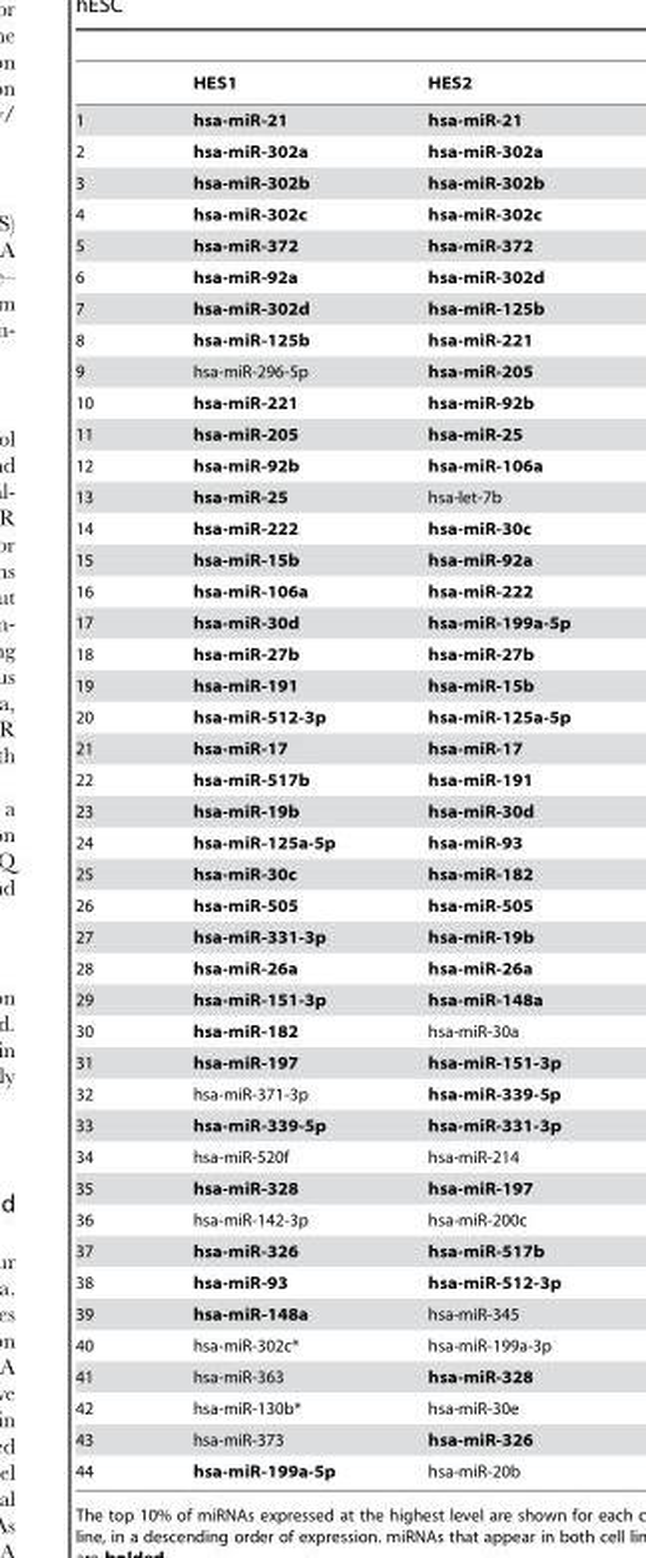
<table><thead><tr><td></td><td>HES1</td><td>HES2</td></tr></thead><tbody><tr><td>1</td><td>hsa-miR-21</td><td>hsa-miR-21</td></tr><tr><td>2</td><td>hsa-miR-302a</td><td>hsa-miR-302a</td></tr><tr><td>3</td><td>hsa-miR-302b</td><td>hsa-miR-302b</td></tr><tr><td>4</td><td>hsa-miR-302c</td><td>hsa-miR-302c</td></tr><tr><td>5</td><td>hsa-miR-372</td><td>hsa-miR-372</td></tr><tr><td>6</td><td>hsa-miR-92a</td><td>hsa-miR-302d</td></tr><tr><td>7</td><td>hsa-miR-302d</td><td>hsa-miR-125b</td></tr><tr><td>8</td><td>hsa-miR-125b</td><td>hsa-miR-221</td></tr><tr><td>9</td><td>hsa-miR-296-5p</td><td>hsa-miR-205</td></tr><tr><td>10</td><td>hsa-miR-221</td><td>hsa-miR-92b</td></tr><tr><td>11</td><td>hsa-miR-205</td><td>hsa-miR-25</td></tr><tr><td>12</td><td>hsa-miR-92b</td><td>hsa-miR-106a</td></tr><tr><td>13</td><td>hsa-miR-25</td><td>hsa-let-7b</td></tr><tr><td>14</td><td>hsa-miR-222</td><td>hsa-miR-30c</td></tr><tr><td>15</td><td>hsa-miR-15b</td><td>hsa-miR-92a</td></tr><tr><td>16</td><td>hsa-miR-106a</td><td>hsa-miR-222</td></tr><tr><td>17</td><td>hsa-miR-30d</td><td>hsa-miR-199a-5p</td></tr><tr><td>18</td><td>hsa-miR-27b</td><td>hsa-miR-27b</td></tr><tr><td>19</td><td>hsa-miR-191</td><td>hsa-miR-15b</td></tr><tr><td>20</td><td>hsa-miR-512-3p</td><td>hsa-miR-125a-5p</td></tr><tr><td>21</td><td>hsa-miR-17</td><td>hsa-miR-17</td></tr><tr><td>22</td><td>hsa-miR-517b</td><td>hsa-miR-191</td></tr><tr><td>23</td><td>hsa-miR-19b</td><td>hsa-miR-30d</td></tr><tr><td>24</td><td>hsa-miR-125a-5p</td><td>hsa-miR-93</td></tr><tr><td>25</td><td>hsa-miR-30c</td><td>hsa-miR-182</td></tr><tr><td>26</td><td>hsa-miR-505</td><td>hsa-miR-505</td></tr><tr><td>27</td><td>hsa-miR-331-3p</td><td>hsa-miR-19b</td></tr><tr><td>28</td><td>hsa-miR-26a</td><td>hsa-miR-26a</td></tr><tr><td>29</td><td>hsa-miR-151-3p</td><td>hsa-miR-148a</td></tr><tr><td>30</td><td>hsa-miR-182</td><td>hsa-miR-30a</td></tr><tr><td>31</td><td>hsa-miR-197</td><td>hsa-miR-151-3p</td></tr><tr><td>32</td><td>hsa-miR-371-3p</td><td>hsa-miR-339-5p</td></tr><tr><td>33</td><td>hsa-miR-339-5p</td><td>hsa-miR-331-3p</td></tr><tr><td>34</td><td>hsa-miR-520f</td><td>hsa-miR-214</td></tr><tr><td>35</td><td>hsa-miR-328</td><td>hsa-miR-197</td></tr><tr><td>36</td><td>hsa-miR-142-3p</td><td>hsa-miR-200c</td></tr><tr><td>37</td><td>hsa-miR-326</td><td>hsa-miR-517b</td></tr><tr><td>38</td><td>hsa-miR-93</td><td>hsa-miR-512-3p</td></tr><tr><td>39</td><td>hsa-miR-148a</td><td>hsa-miR-345</td></tr><tr><td>40</td><td>hsa-miR-302c*</td><td>hsa-miR-199a-3p</td></tr><tr><td>41</td><td>hsa-miR-363</td><td>hsa-miR-328</td></tr><tr><td>42</td><td>hsa-miR-130b*</td><td>hsa-miR-30e</td></tr><tr><td>43</td><td>hsa-miR-373</td><td>hsa-miR-326</td></tr><tr><td>44</td><td>hsa-miR-199a-5p</td><td>hsa-miR-20b</td></tr></tbody></table>